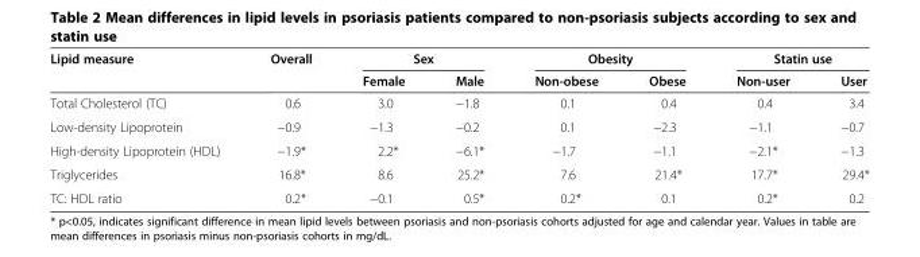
<table><thead><tr><td rowspan="2">Lipid measure</td><td rowspan="2">Overall</td><td colspan="2">Sex</td><td colspan="2">Obesity</td><td colspan="2">Statin use</td></tr><tr><td>Female</td><td>Male</td><td>Non-obese</td><td>Obese</td><td>Non-user</td><td>User</td></tr></thead><tbody><tr><td>Total Cholesterol (TC)</td><td>0.6</td><td>3.0</td><td>−1.8</td><td>0.1</td><td>0.4</td><td>0.4</td><td>3.4</td></tr><tr><td>Low-density Lipoprotein</td><td>−0.9</td><td>−1.3</td><td>−0.2</td><td>0.1</td><td>−2.3</td><td>−1.1</td><td>−0.7</td></tr><tr><td>High-density Lipoprotein (HDL)</td><td>−1.9*</td><td>2.2*</td><td>−6.1*</td><td>−1.7</td><td>−1.1</td><td>−2.1*</td><td>−1.3</td></tr><tr><td>Triglycerides</td><td>16.8*</td><td>8.6</td><td>25.2*</td><td>7.6</td><td>21.4*</td><td>17.7*</td><td>29.4*</td></tr><tr><td>TC: HDL ratio</td><td>0.2*</td><td>−0.1</td><td>0.5*</td><td>0.2*</td><td>0.1</td><td>0.2*</td><td>0.2</td></tr></tbody></table>